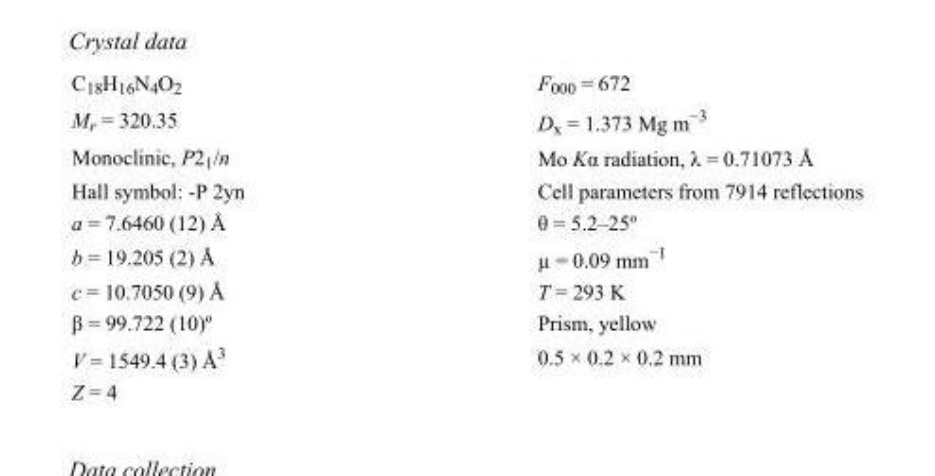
<table><tbody><tr><td>C<sub>18</sub>H<sub>16</sub>N<sub>4</sub>O<sub>2</sub></td><td>F000 = 672</td></tr><tr><td>M<sub>r</sub> = 320.35</td><td>D<sub>x</sub> = 1.373 Mg m<sup>−3</sup></td></tr><tr><td>Monoclinic, P2<sub>1</sub>/n</td><td>Mo Kα radiation, λ = 0.71073 Å</td></tr><tr><td>Hall symbol: -P 2yn</td><td>Cell parameters from 7914 reflections</td></tr><tr><td>a = 7.6460 (12) Å</td><td>θ = 5.2–25º</td></tr><tr><td>b = 19.205 (2) Å</td><td>µ = 0.09 mm<sup>−1</sup></td></tr><tr><td>c = 10.7050 (9) Å</td><td>T = 293 K</td></tr><tr><td>β = 99.722 (10)º</td><td>Prism, yellow</td></tr><tr><td>V = 1549.4 (3) Å<sup>3</sup></td><td>0.5 × 0.2 × 0.2 mm</td></tr><tr><td>Z = 4</td><td></td></tr></tbody></table>